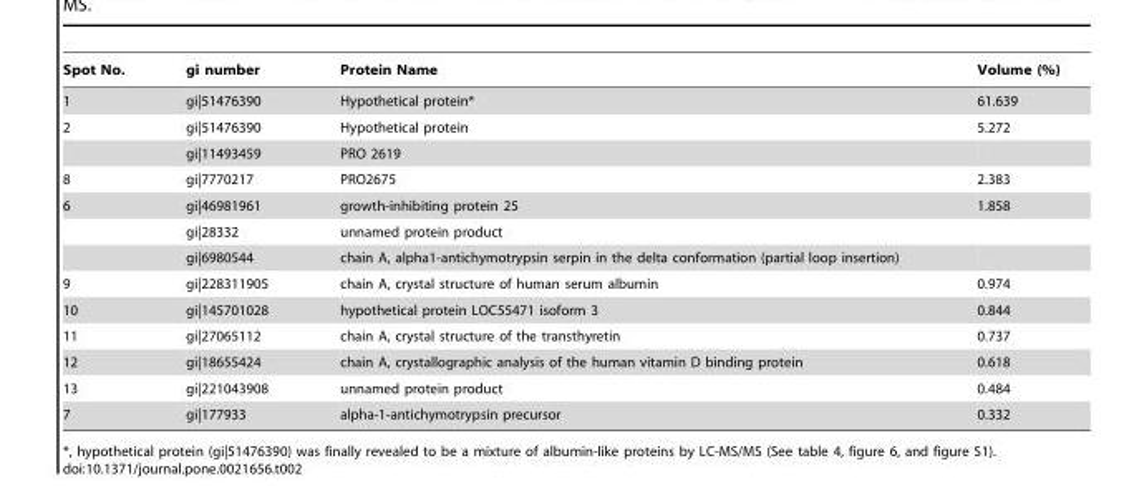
<table><thead><tr><td>Spot No.</td><td>gi number</td><td>Protein Name</td><td>Volume (%)</td></tr></thead><tbody><tr><td>1</td><td>gi|51476390</td><td>Hypothetical protein*</td><td>61.639</td></tr><tr><td rowspan="2">2</td><td>gi|51476390</td><td>Hypothetical protein</td><td>5.272</td></tr><tr><td>gi|11493459</td><td>PRO 2619</td><td></td></tr><tr><td>8</td><td>gi|7770217</td><td>PRO2675</td><td>2.383</td></tr><tr><td rowspan="3">6</td><td>gi|46981961</td><td>growth-inhibiting protein 25</td><td>1.858</td></tr><tr><td>gi|28332</td><td>unnamed protein product</td><td></td></tr><tr><td>gi|6980544</td><td>chain A, alpha1-antichymotrypsin serpin in the delta conformation (partial loop insertion)</td><td></td></tr><tr><td>9</td><td>gi|228311905</td><td>chain A, crystal structure of human serum albumin</td><td>0.974</td></tr><tr><td>10</td><td>gi|145701028</td><td>hypothetical protein LOC55471 isoform 3</td><td>0.844</td></tr><tr><td>11</td><td>gi|27065112</td><td>chain A, crystal structure of the transthyretin</td><td>0.737</td></tr><tr><td>12</td><td>gi|18655424</td><td>chain A, crystallographic analysis of the human vitamin D binding protein</td><td>0.618</td></tr><tr><td>13</td><td>gi|221043908</td><td>unnamed protein product</td><td>0.484</td></tr><tr><td>7</td><td>gi|177933</td><td>alpha-1-antichymotrypsin precursor</td><td>0.332</td></tr></tbody></table>